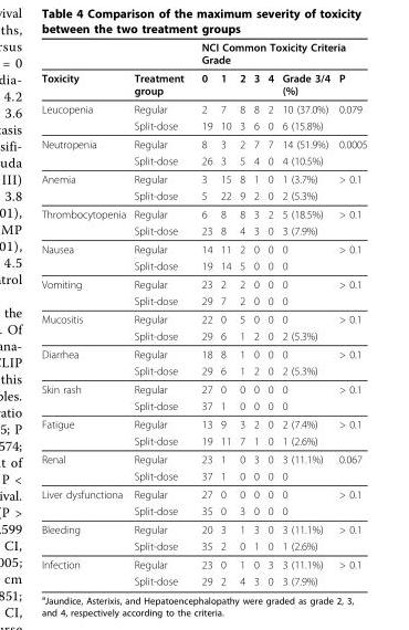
<table><thead><tr><td rowspan="2">Toxicity</td><td rowspan="2">Treatment group</td><td colspan="7">NCI Common Toxicity Criteria Grade</td></tr><tr><td>0</td><td>1</td><td>2</td><td>3</td><td>4</td><td>Grade 3/4 (%)</td><td>P</td></tr></thead><tbody><tr><td rowspan="2">Leucopenia</td><td>Regular</td><td>2</td><td>7</td><td>8</td><td>8</td><td>2</td><td>10 (37.0%)</td><td>0.079</td></tr><tr><td>Split-dose</td><td>19</td><td>10</td><td>3</td><td>6</td><td>0</td><td>6 (15.8%)</td><td></td></tr><tr><td rowspan="2">Neutropenia</td><td>Regular</td><td>8</td><td>3</td><td>2</td><td>7</td><td>7</td><td>14 (51.9%)</td><td>0.0005</td></tr><tr><td>Split-dose</td><td>26</td><td>3</td><td>5</td><td>4</td><td>0</td><td>4 (10.5%)</td><td></td></tr><tr><td rowspan="2">Anemia</td><td>Regular</td><td>3</td><td>15</td><td>8</td><td>1</td><td>0</td><td>1 (3.7%)</td><td>&gt; 0.1</td></tr><tr><td>Split-dose</td><td>5</td><td>22</td><td>9</td><td>2</td><td>0</td><td>2 (5.3%)</td><td></td></tr><tr><td rowspan="2">Thrombocytopenia</td><td>Regular</td><td>6</td><td>8</td><td>8</td><td>3</td><td>2</td><td>5 (18.5%)</td><td>&gt; 0.1</td></tr><tr><td>Split-dose</td><td>23</td><td>8</td><td>4</td><td>3</td><td>0</td><td>3 (7.9%)</td><td></td></tr><tr><td rowspan="2">Nausea</td><td>Regular</td><td>14</td><td>11</td><td>2</td><td>0</td><td>0</td><td>0</td><td>&gt; 0.1</td></tr><tr><td>Split-dose</td><td>19</td><td>14</td><td>5</td><td>0</td><td>0</td><td>0</td><td></td></tr><tr><td rowspan="2">Vomiting</td><td>Regular</td><td>23</td><td>2</td><td>2</td><td>0</td><td>0</td><td>0</td><td>&gt; 0.1</td></tr><tr><td>Split-dose</td><td>29</td><td>7</td><td>2</td><td>0</td><td>0</td><td>0</td><td></td></tr><tr><td rowspan="2">Mucositis</td><td>Regular</td><td>22</td><td>0</td><td>5</td><td>0</td><td>0</td><td>0</td><td>&gt; 0.1</td></tr><tr><td>Split-dose</td><td>29</td><td>6</td><td>1</td><td>2</td><td>0</td><td>2 (5.3%)</td><td></td></tr><tr><td rowspan="2">Diarrhea</td><td>Regular</td><td>18</td><td>8</td><td>1</td><td>0</td><td>0</td><td>0</td><td>&gt; 0.1</td></tr><tr><td>Split-dose</td><td>29</td><td>6</td><td>1</td><td>2</td><td>0</td><td>2 (5.3%)</td><td></td></tr><tr><td rowspan="2">Skin rash</td><td>Regular</td><td>27</td><td>0</td><td>0</td><td>0</td><td>0</td><td>0</td><td>&gt; 0.1</td></tr><tr><td>Split-dose</td><td>37</td><td>1</td><td>0</td><td>0</td><td>0</td><td>0</td><td></td></tr><tr><td rowspan="2">Fatigue</td><td>Regular</td><td>13</td><td>9</td><td>3</td><td>2</td><td>0</td><td>2 (7.4%)</td><td>&gt; 0.1</td></tr><tr><td>Split-dose</td><td>19</td><td>11</td><td>7</td><td>1</td><td>0</td><td>1 (2.6%)</td><td></td></tr><tr><td rowspan="2">Renal</td><td>Regular</td><td>23</td><td>1</td><td>0</td><td>3</td><td>0</td><td>3 (11.1%)</td><td>0.067</td></tr><tr><td>Split-dose</td><td>37</td><td>1</td><td>0</td><td>0</td><td>0</td><td>0</td><td></td></tr><tr><td rowspan="2">Liver dysfunctiona</td><td>Regular</td><td>27</td><td>0</td><td>0</td><td>0</td><td>0</td><td>0</td><td>&gt; 0.1</td></tr><tr><td>Split-dose</td><td>35</td><td>0</td><td>3</td><td>0</td><td>0</td><td>0</td><td></td></tr><tr><td rowspan="2">Bleeding</td><td>Regular</td><td>20</td><td>3</td><td>1</td><td>3</td><td>0</td><td>3 (11.1%)</td><td>&gt; 0.1</td></tr><tr><td>Split-dose</td><td>35</td><td>2</td><td>0</td><td>1</td><td>0</td><td>1 (2.6%)</td><td></td></tr><tr><td rowspan="2">Infection</td><td>Regular</td><td>23</td><td>0</td><td>1</td><td>0</td><td>3</td><td>3 (11.1%)</td><td>&gt; 0.1</td></tr><tr><td>Split-dose</td><td>29</td><td>2</td><td>4</td><td>3</td><td>0</td><td>3 (7.9%)</td><td></td></tr></tbody></table>